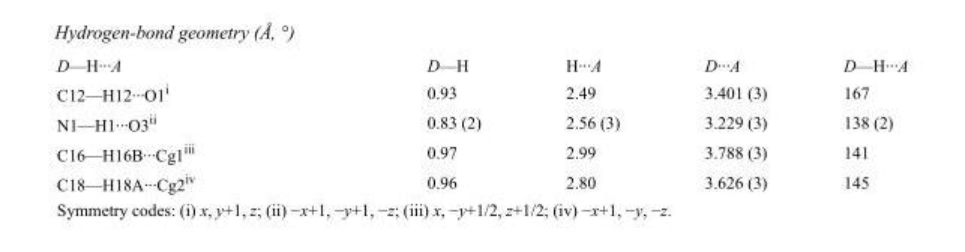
<table><tbody><tr><td>D—H···A</td><td>D—H</td><td>H···A</td><td>D···A</td><td>D—H···A</td></tr><tr><td>C12—H12···O1<sup>i</sup></td><td>0.93</td><td>2.49</td><td>3.401 (3)</td><td>167</td></tr><tr><td>N1—H1···O3<sup>ii</sup></td><td>0.83 (2)</td><td>2.56 (3)</td><td>3.229 (3)</td><td>138 (2)</td></tr><tr><td>C16—H16B···Cg1<sup>iii</sup></td><td>0.97</td><td>2.99</td><td>3.788 (3)</td><td>141</td></tr><tr><td>C18—H18A···Cg2<sup>iv</sup></td><td>0.96</td><td>2.80</td><td>3.626 (3)</td><td>145</td></tr></tbody></table>